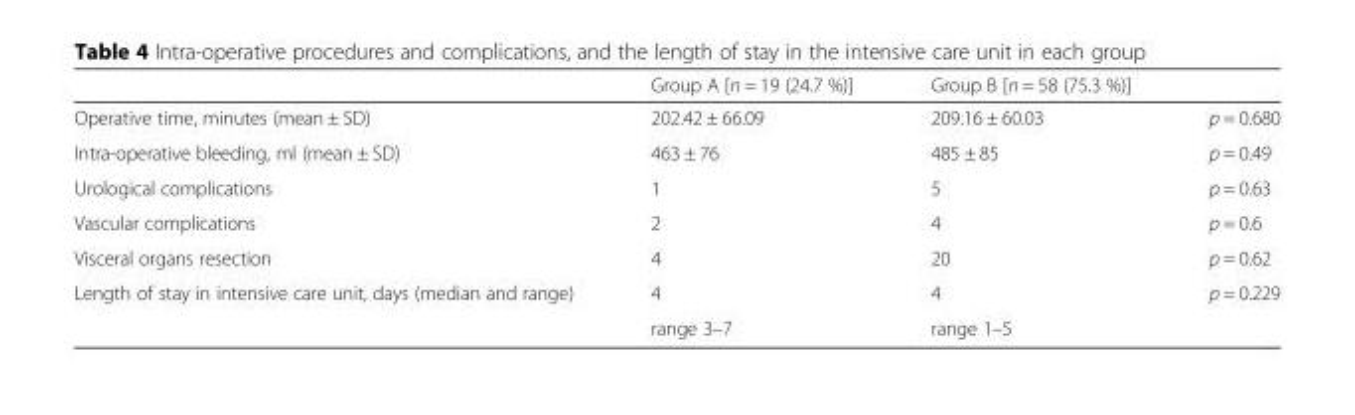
<table><thead><tr><td></td><td>Group A [n = 19 (24.7 %)]</td><td>Group B [n = 58 (75.3 %)]</td><td></td></tr></thead><tbody><tr><td>Operative time, minutes (mean ± SD)</td><td>202.42 ± 66.09</td><td>209.16 ± 60.03</td><td>p = 0.680</td></tr><tr><td>Intra-operative bleeding, ml (mean ± SD)</td><td>463 ± 76</td><td>485 ± 85</td><td>p = 0.49</td></tr><tr><td>Urological complications</td><td>1</td><td>5</td><td>p = 0.63</td></tr><tr><td>Vascular complications</td><td>2</td><td>4</td><td>p = 0.6</td></tr><tr><td>Visceral organs resection</td><td>4</td><td>20</td><td>p = 0.62</td></tr><tr><td rowspan="2">Length of stay in intensive care unit, days (median and range)</td><td>4</td><td>4</td><td rowspan="2">p = 0.229</td></tr><tr><td>range 3–7</td><td>range 1–5</td></tr></tbody></table>